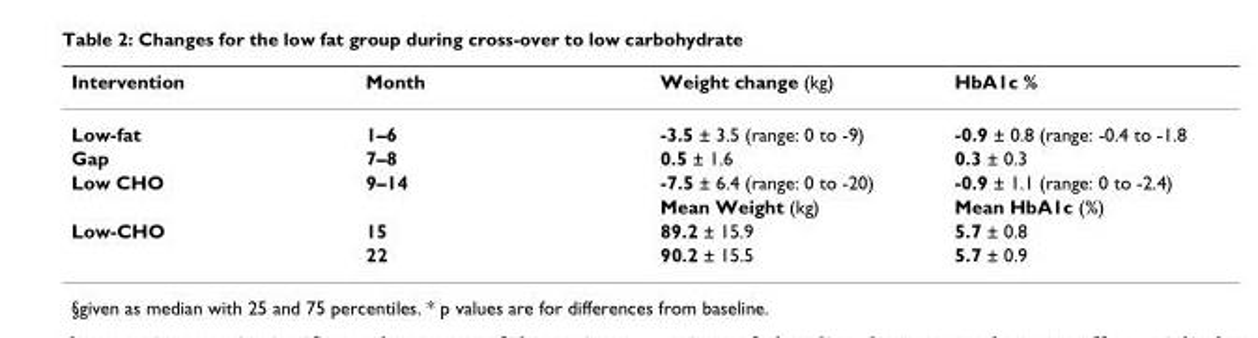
<table><thead><tr><td>Intervention</td><td>Month</td><td>Weight change (kg)</td><td>HbA1c %</td></tr></thead><tbody><tr><td>Low-fat</td><td>1–6</td><td>-3.5 ± 3.5 (range: 0 to -9)</td><td>-0.9 ± 0.8 (range: -0.4 to -1.8</td></tr><tr><td>Gap</td><td>7–8</td><td>0.5 ± 1.6</td><td>0.3 ± 0.3</td></tr><tr><td rowspan="2">Low CHO</td><td>9–14</td><td>-7.5 ± 6.4 (range: 0 to -20)</td><td>-0.9 ± 1.1 (range: 0 to -2.4)</td></tr><tr><td></td><td>Mean Weight (kg)</td><td>Mean HbA1c (%)</td></tr><tr><td rowspan="2">Low-CHO</td><td>15</td><td>89.2 ± 15.9</td><td>5.7 ± 0.8</td></tr><tr><td>22</td><td>90.2 ± 15.5</td><td>5.7 ± 0.9</td></tr></tbody></table>